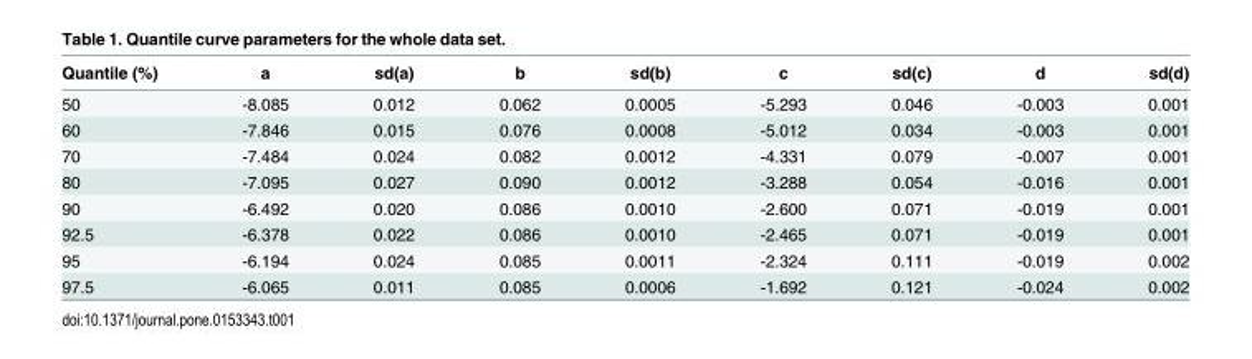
<table><thead><tr><td>Quantile (%)</td><td>a</td><td>sd(a)</td><td>b</td><td>sd(b)</td><td>c</td><td>sd(c)</td><td>d</td><td>sd(d)</td></tr></thead><tbody><tr><td>50</td><td>-8.085</td><td>0.012</td><td>0.062</td><td>0.0005</td><td>-5.293</td><td>0.046</td><td>-0.003</td><td>0.001</td></tr><tr><td>60</td><td>-7.846</td><td>0.015</td><td>0.076</td><td>0.0008</td><td>-5.012</td><td>0.034</td><td>-0.003</td><td>0.001</td></tr><tr><td>70</td><td>-7.484</td><td>0.024</td><td>0.082</td><td>0.0012</td><td>-4.331</td><td>0.079</td><td>-0.007</td><td>0.001</td></tr><tr><td>80</td><td>-7.095</td><td>0.027</td><td>0.090</td><td>0.0012</td><td>-3.288</td><td>0.054</td><td>-0.016</td><td>0.001</td></tr><tr><td>90</td><td>-6.492</td><td>0.020</td><td>0.086</td><td>0.0010</td><td>-2.600</td><td>0.071</td><td>-0.019</td><td>0.001</td></tr><tr><td>92.5</td><td>-6.378</td><td>0.022</td><td>0.086</td><td>0.0010</td><td>-2.465</td><td>0.071</td><td>-0.019</td><td>0.001</td></tr><tr><td>95</td><td>-6.194</td><td>0.024</td><td>0.085</td><td>0.0011</td><td>-2.324</td><td>0.111</td><td>-0.019</td><td>0.002</td></tr><tr><td>97.5</td><td>-6.065</td><td>0.011</td><td>0.085</td><td>0.0006</td><td>-1.692</td><td>0.121</td><td>-0.024</td><td>0.002</td></tr></tbody></table>